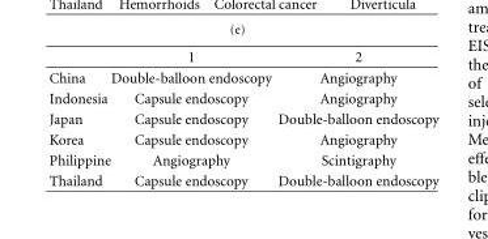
<table><thead><tr><td></td><td>1</td><td>2</td></tr></thead><tbody><tr><td>China</td><td>Double-balloon endoscopy</td><td>Angiography</td></tr><tr><td>Indonesia</td><td>Capsule endoscopy</td><td>Angiography</td></tr><tr><td>Japan</td><td>Capsule endoscopy</td><td>Double-balloon endoscopy</td></tr><tr><td>Korea</td><td>Capsule endoscopy</td><td>Angiography</td></tr><tr><td>Philippine</td><td>Angiography</td><td>Scintigraphy</td></tr><tr><td>Thailand</td><td>Capsule endoscopy</td><td>Double-balloon endoscopy</td></tr></tbody></table>